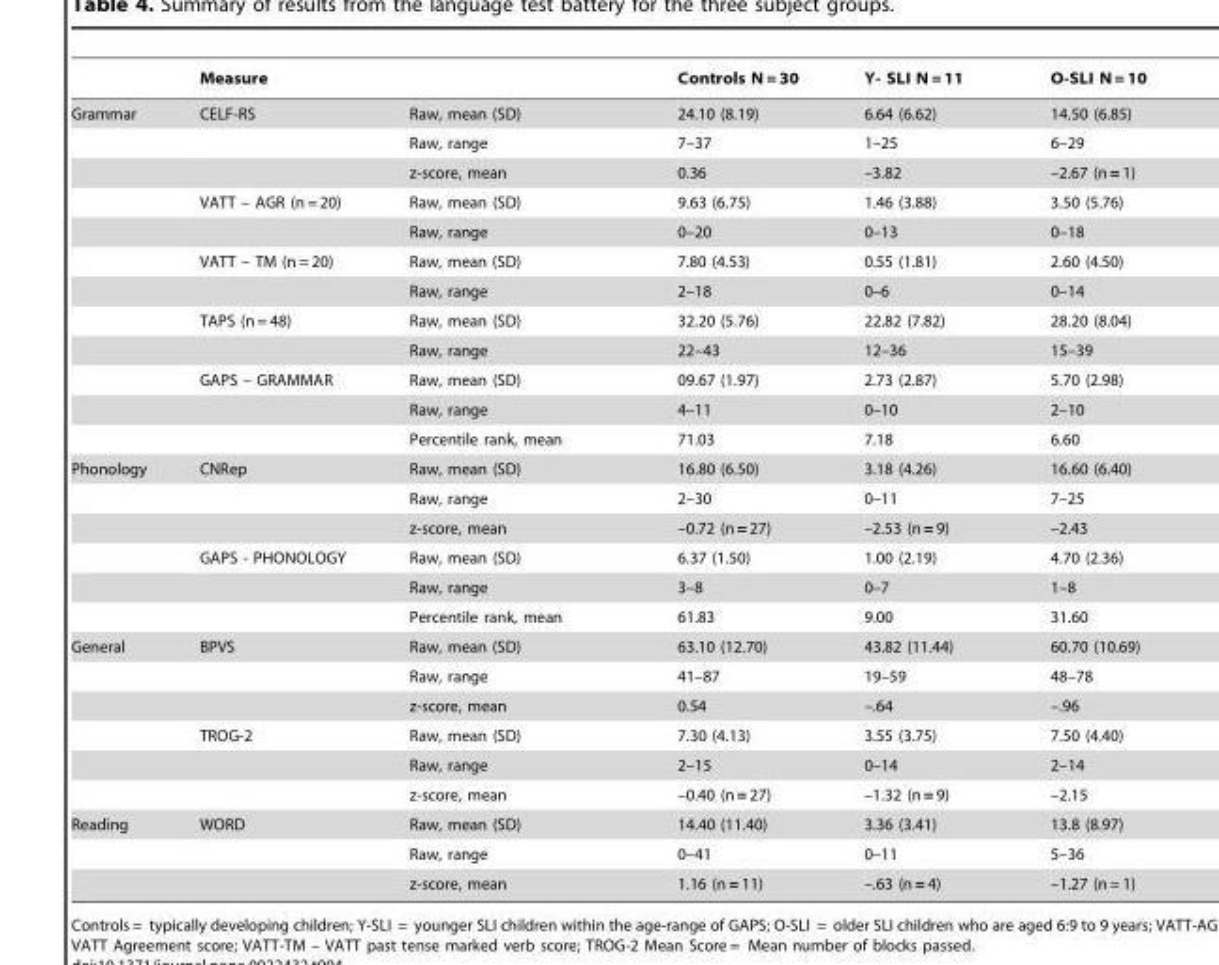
<table><thead><tr><td rowspan="2">Grammar</td><td colspan="2">Measure</td><td rowspan="2">Controls N = 30 24.10 (8.19)</td><td rowspan="2">Y- SLI N = 11 6.64 (6.62)</td><td rowspan="2">O-SLI N = 10 14.50 (6.85)</td></tr><tr><td>CELF-RS</td><td>Raw, mean (SD)</td></tr></thead><tbody><tr><td></td><td></td><td>Raw, range</td><td>7–37</td><td>1–25</td><td>6–29</td></tr><tr><td></td><td></td><td>z-score, mean</td><td>0.36</td><td>–3.82</td><td>–2.67 (n = 1)</td></tr><tr><td></td><td>VATT – AGR (n = 20)</td><td>Raw, mean (SD)</td><td>9.63 (6.75)</td><td>1.46 (3.88)</td><td>3.50 (5.76)</td></tr><tr><td></td><td></td><td>Raw, range</td><td>0–20</td><td>0–13</td><td>0–18</td></tr><tr><td></td><td>VATT – TM (n = 20)</td><td>Raw, mean (SD)</td><td>7.80 (4.53)</td><td>0.55 (1.81)</td><td>2.60 (4.50)</td></tr><tr><td></td><td></td><td>Raw, range</td><td>2–18</td><td>0–6</td><td>0–14</td></tr><tr><td></td><td>TAPS (n = 48)</td><td>Raw, mean (SD)</td><td>32.20 (5.76)</td><td>22.82 (7.82)</td><td>28.20 (8.04)</td></tr><tr><td></td><td></td><td>Raw, range</td><td>22–43</td><td>12–36</td><td>15–39</td></tr><tr><td></td><td>GAPS – GRAMMAR</td><td>Raw, mean (SD)</td><td>09.67 (1.97)</td><td>2.73 (2.87)</td><td>5.70 (2.98)</td></tr><tr><td></td><td></td><td>Raw, range</td><td>4–11</td><td>0–10</td><td>2–10</td></tr><tr><td></td><td></td><td>Percentile rank, mean</td><td>71.03</td><td>7.18</td><td>6.60</td></tr><tr><td rowspan="6">Phonology</td><td>CNRep</td><td>Raw, mean (SD)</td><td>16.80 (6.50)</td><td>3.18 (4.26)</td><td>16.60 (6.40)</td></tr><tr><td></td><td>Raw, range</td><td>2–30</td><td>0–11</td><td>7–25</td></tr><tr><td></td><td>z-score, mean</td><td>–0.72 (n = 27)</td><td>–2.53 (n = 9)</td><td>–2.43</td></tr><tr><td>GAPS - PHONOLOGY</td><td>Raw, mean (SD)</td><td>6.37 (1.50)</td><td>1.00 (2.19)</td><td>4.70 (2.36)</td></tr><tr><td></td><td>Raw, range</td><td>3–8</td><td>0–7</td><td>1–8</td></tr><tr><td></td><td>Percentile rank, mean</td><td>61.83</td><td>9.00</td><td>31.60</td></tr><tr><td rowspan="6">General</td><td>BPVS</td><td>Raw, mean (SD)</td><td>63.10 (12.70)</td><td>43.82 (11.44)</td><td>60.70 (10.69)</td></tr><tr><td></td><td>Raw, range</td><td>41–87</td><td>19–59</td><td>48–78</td></tr><tr><td></td><td>z-score, mean</td><td>0.54</td><td>–.64</td><td>–.96</td></tr><tr><td>TROG-2</td><td>Raw, mean (SD)</td><td>7.30 (4.13)</td><td>3.55 (3.75)</td><td>7.50 (4.40)</td></tr><tr><td></td><td>Raw, range</td><td>2–15</td><td>0–14</td><td>2–14</td></tr><tr><td></td><td>z-score, mean</td><td>–0.40 (n = 27)</td><td>–1.32 (n = 9)</td><td>–2.15</td></tr><tr><td rowspan="3">Reading</td><td>WORD</td><td>Raw, mean (SD)</td><td>14.40 (11.40)</td><td>3.36 (3.41)</td><td>13.8 (8.97)</td></tr><tr><td></td><td>Raw, range</td><td>0–41</td><td>0–11</td><td>5–36</td></tr><tr><td></td><td>z-score, mean</td><td>1.16 (n = 11)</td><td>–.63 (n = 4)</td><td>–1.27 (n = 1)</td></tr></tbody></table>